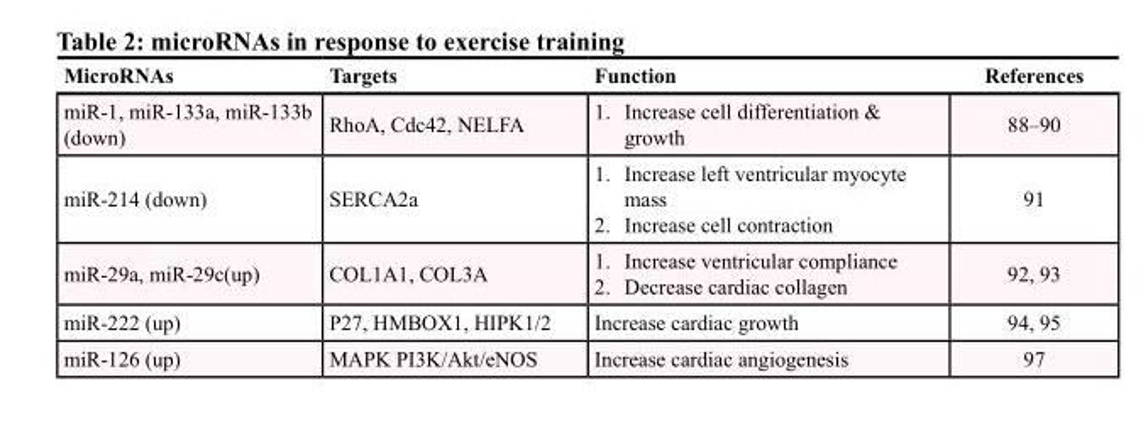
<table><thead><tr><td>MicroRNAs</td><td>Targets</td><td>Function</td><td>References</td></tr></thead><tbody><tr><td>miR-1, miR-133a, miR-133b (down)</td><td>RhoA, Cdc42, NELFA</td><td>1. Increase cell differentiation &amp; growth</td><td>88–90</td></tr><tr><td>miR-214 (down)</td><td>SERCA2a</td><td>1. Increase left ventricular myocyte mass 2. Increase cell contraction</td><td>91</td></tr><tr><td>miR-29a, miR-29c(up)</td><td>COL1A1, COL3A</td><td>1. Increase ventricular compliance 2. Decrease cardiac collagen</td><td>92, 93</td></tr><tr><td>miR-222 (up)</td><td>P27, HMBOX1, HIPK1/2</td><td>Increase cardiac growth</td><td>94, 95</td></tr><tr><td>miR-126 (up)</td><td>MAPK PI3K/Akt/eNOS</td><td>Increase cardiac angiogenesis</td><td>97</td></tr></tbody></table>